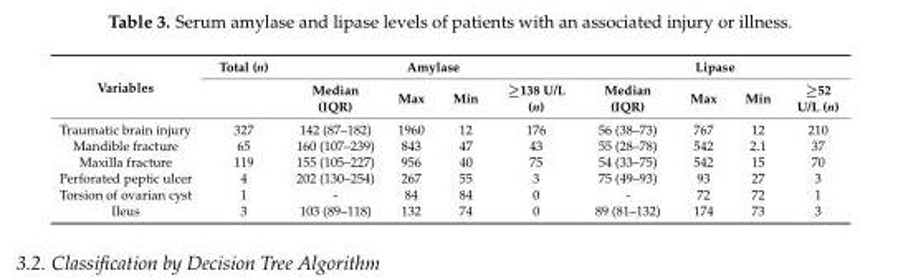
<table><thead><tr><td rowspan="2">Variables</td><td rowspan="2">Total (n)</td><td colspan="4">Amylase</td><td colspan="4">Lipase</td></tr><tr><td>Median (IQR)</td><td>Max</td><td>Min</td><td>≥138 U/L (n)</td><td>Median (IQR)</td><td>Max</td><td>Min</td><td>≥52 U/L (n)</td></tr></thead><tbody><tr><td>Traumatic brain injury</td><td>327</td><td>142 (87–182)</td><td>1960</td><td>12</td><td>176</td><td>56 (38–73)</td><td>767</td><td>12</td><td>210</td></tr><tr><td>Mandible fracture</td><td>65</td><td>160 (107–239)</td><td>843</td><td>47</td><td>43</td><td>55 (28–78)</td><td>542</td><td>2.1</td><td>37</td></tr><tr><td>Maxilla fracture</td><td>119</td><td>155 (105–227)</td><td>956</td><td>40</td><td>75</td><td>54 (33–75)</td><td>542</td><td>15</td><td>70</td></tr><tr><td>Perforated peptic ulcer</td><td>4</td><td>202 (130–254)</td><td>267</td><td>55</td><td>3</td><td>75 (49–93)</td><td>93</td><td>27</td><td>3</td></tr><tr><td>Torsion of ovarian cyst</td><td>1</td><td>-</td><td>84</td><td>84</td><td>0</td><td>-</td><td>72</td><td>72</td><td>1</td></tr><tr><td>Ileus</td><td>3</td><td>103 (89–118)</td><td>132</td><td>74</td><td>0</td><td>89 (81–132)</td><td>174</td><td>73</td><td>3</td></tr></tbody></table>